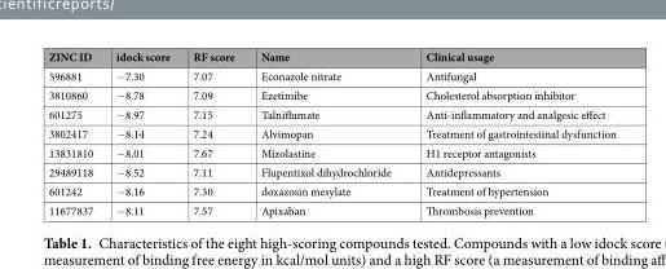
<table><thead><tr><td>ZINC ID</td><td>idock score</td><td>RF score</td><td>Name</td><td>Clinical usage</td></tr></thead><tbody><tr><td>596881</td><td>−7.30</td><td>7.07</td><td>Econazole nitrate</td><td>Antifungal</td></tr><tr><td>3810860</td><td>−8.78</td><td>7.09</td><td>Ezetimibe</td><td>Cholesterol absorption inhibitor</td></tr><tr><td>601275</td><td>−8.97</td><td>7.15</td><td>Talniflumate</td><td>Anti-inflammatory and analgesic effect</td></tr><tr><td>3802417</td><td>−8.14</td><td>7.24</td><td>Alvimopan</td><td>Treatment of gastrointestinal dysfunction</td></tr><tr><td>13831810</td><td>−8.01</td><td>7.67</td><td>Mizolastine</td><td>H1 receptor antagonists</td></tr><tr><td>29489118</td><td>−8.52</td><td>7.11</td><td>Flupentixol dihydrochloride</td><td>Antidepressants</td></tr><tr><td>601242</td><td>−8.16</td><td>7.30</td><td>doxazosin mesylate</td><td>Treatment of hypertension</td></tr><tr><td>11677837</td><td>−8.11</td><td>7.57</td><td>Apixaban</td><td>Thrombosis prevention</td></tr></tbody></table>